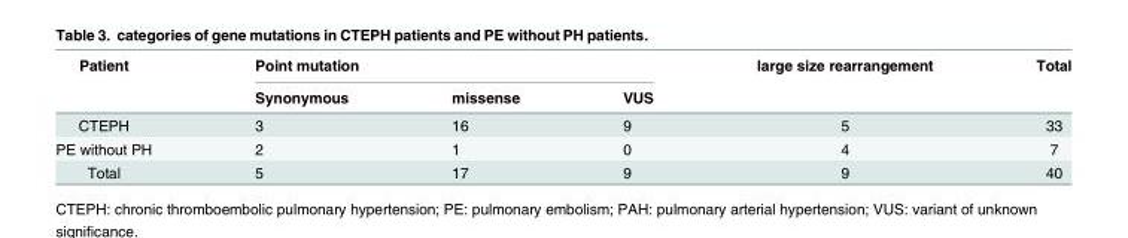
<table><thead><tr><td rowspan="2">Patient</td><td colspan="3">Point mutation</td><td rowspan="2">large size rearrangement</td><td rowspan="2">Total</td></tr><tr><td>Synonymous</td><td>missense</td><td>VUS</td></tr></thead><tbody><tr><td>CTEPH</td><td>3</td><td>16</td><td>9</td><td>5</td><td>33</td></tr><tr><td>PE without PH</td><td>2</td><td>1</td><td>0</td><td>4</td><td>7</td></tr><tr><td>Total</td><td>5</td><td>17</td><td>9</td><td>9</td><td>40</td></tr></tbody></table>